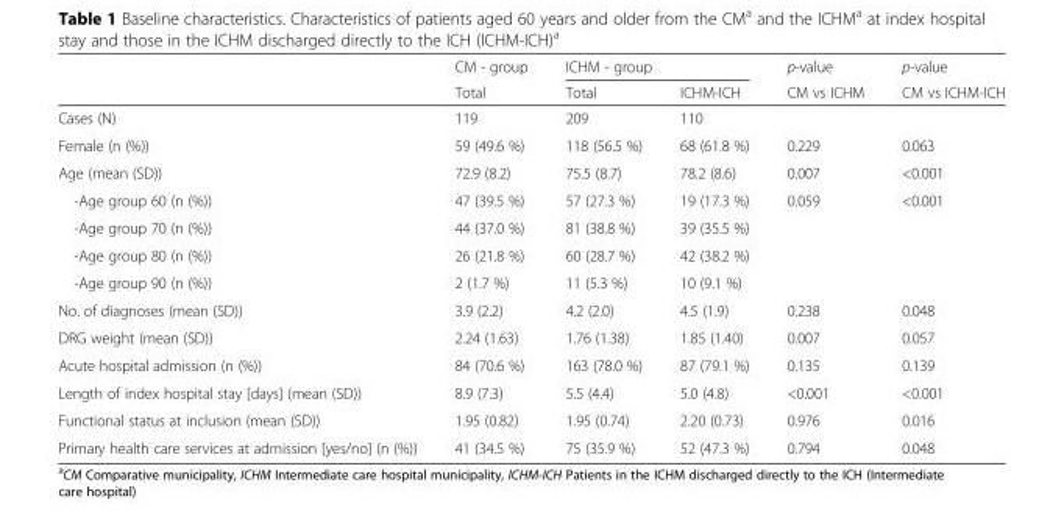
<table><thead><tr><td rowspan="2"></td><td rowspan="2">CM - group Total</td><td colspan="2">ICHM - group</td><td rowspan="2">p-value CM vs ICHM</td><td rowspan="2">p-value CM vs ICHM-ICH</td></tr><tr><td>Total</td><td>ICHM-ICH</td></tr></thead><tbody><tr><td>Cases (N)</td><td>119</td><td>209</td><td>110</td><td></td><td></td></tr><tr><td>Female (n (%))</td><td>59 (49.6 %)</td><td>118 (56.5 %)</td><td>68 (61.8 %)</td><td>0.229</td><td>0.063</td></tr><tr><td>Age (mean (SD))</td><td>72.9 (8.2)</td><td>75.5 (8.7)</td><td>78.2 (8.6)</td><td>0.007</td><td>&lt;0.001</td></tr><tr><td>-Age group 60 (n (%))</td><td>47 (39.5 %)</td><td>57 (27.3 %)</td><td>19 (17.3 %)</td><td>0.059</td><td>&lt;0.001</td></tr><tr><td>-Age group 70 (n (%))</td><td>44 (37.0 %)</td><td>81 (38.8 %)</td><td>39 (35.5 %)</td><td></td><td></td></tr><tr><td>-Age group 80 (n (%))</td><td>26 (21.8 %)</td><td>60 (28.7 %)</td><td>42 (38.2 %)</td><td></td><td></td></tr><tr><td>-Age group 90 (n (%))</td><td>2 (1.7 %)</td><td>11 (5.3 %)</td><td>10 (9.1 %)</td><td></td><td></td></tr><tr><td>No. of diagnoses (mean (SD))</td><td>3.9 (2.2)</td><td>4.2 (2.0)</td><td>4.5 (1.9)</td><td>0.238</td><td>0.048</td></tr><tr><td>DRG weight (mean (SD))</td><td>2.24 (1.63)</td><td>1.76 (1.38)</td><td>1.85 (1.40)</td><td>0.007</td><td>0.057</td></tr><tr><td>Acute hospital admission (n (%))</td><td>84 (70.6 %)</td><td>163 (78.0 %)</td><td>87 (79.1 %)</td><td>0.135</td><td>0.139</td></tr><tr><td>Length of index hospital stay [days] (mean (SD))</td><td>8.9 (7.3)</td><td>5.5 (4.4)</td><td>5.0 (4.8)</td><td>&lt;0.001</td><td>&lt;0.001</td></tr><tr><td>Functional status at inclusion (mean (SD))</td><td>1.95 (0.82)</td><td>1.95 (0.74)</td><td>2.20 (0.73)</td><td>0.976</td><td>0.016</td></tr><tr><td>Primary health care services at admission [yes/no] (n (%))</td><td>41 (34.5 %)</td><td>75 (35.9 %)</td><td>52 (47.3 %)</td><td>0.794</td><td>0.048</td></tr></tbody></table>